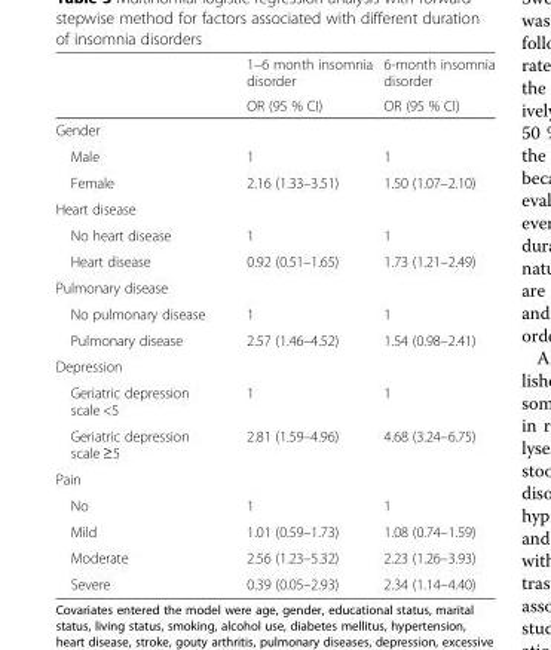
<table><thead><tr><td rowspan="2"></td><td rowspan="2">1–6 month insomnia disorder OR (95 % CI)</td><td rowspan="2">6-month insomnia disorder OR (95 % CI)</td></tr><tr></tr></thead><tbody><tr><td colspan="3">Gender</td></tr><tr><td>Male</td><td>1</td><td>1</td></tr><tr><td>Female</td><td>2.16 (1.33–3.51)</td><td>1.50 (1.07–2.10)</td></tr><tr><td colspan="3">Heart disease</td></tr><tr><td>No heart disease</td><td>1</td><td>1</td></tr><tr><td>Heart disease</td><td>0.92 (0.51–1.65)</td><td>1.73 (1.21–2.49)</td></tr><tr><td colspan="3">Pulmonary disease</td></tr><tr><td>No pulmonary disease</td><td>1</td><td>1</td></tr><tr><td>Pulmonary disease</td><td>2.57 (1.46–4.52)</td><td>1.54 (0.98–2.41)</td></tr><tr><td colspan="3">Depression</td></tr><tr><td>Geriatric depression scale &lt;5</td><td>1</td><td>1</td></tr><tr><td>Geriatric depression scale ≥5</td><td>2.81 (1.59–4.96)</td><td>4.68 (3.24–6.75)</td></tr><tr><td colspan="3">Pain</td></tr><tr><td>No</td><td>1</td><td>1</td></tr><tr><td>Mild</td><td>1.01 (0.59–1.73)</td><td>1.08 (0.74–1.59)</td></tr><tr><td>Moderate</td><td>2.56 (1.23–5.32)</td><td>2.23 (1.26–3.93)</td></tr><tr><td>Severe</td><td>0.39 (0.05–2.93)</td><td>2.34 (1.14–4.40)</td></tr></tbody></table>